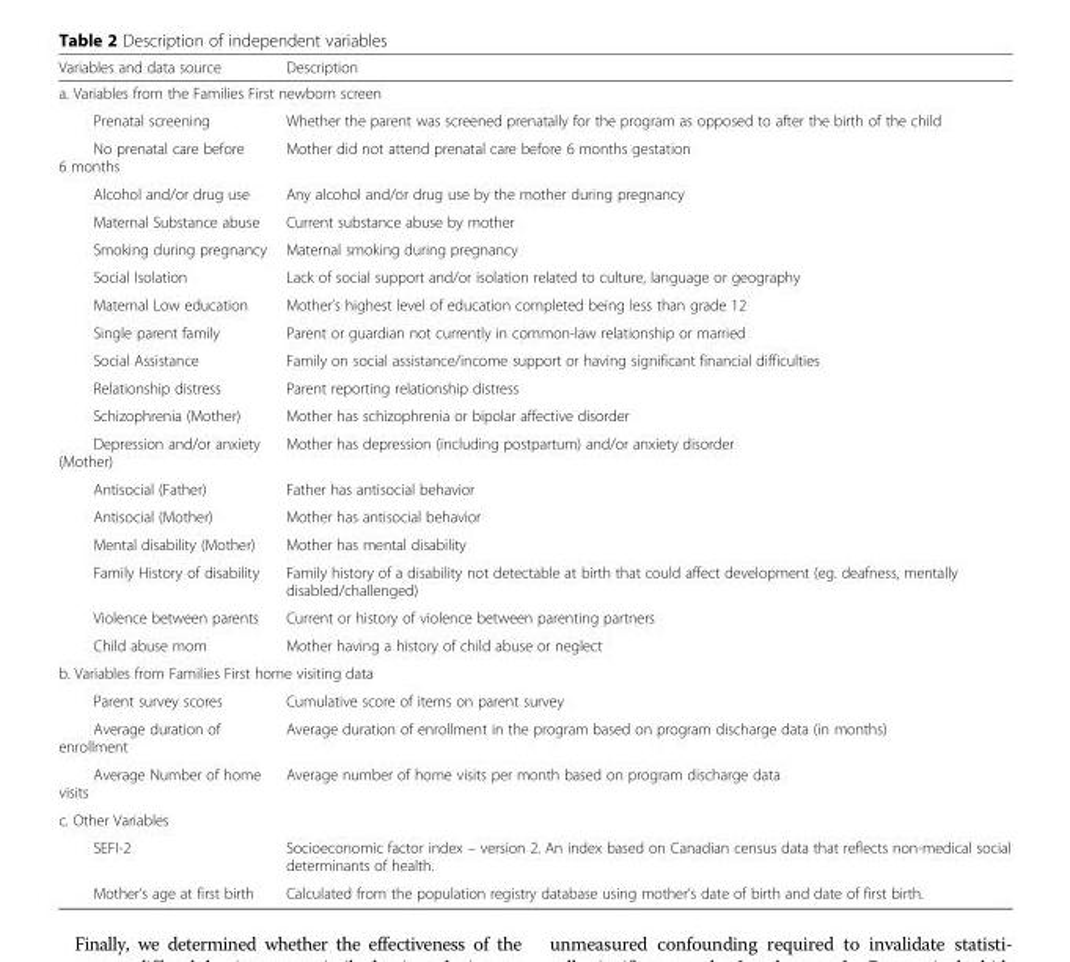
<table><thead><tr><td>Variables and data source</td><td>Description</td></tr></thead><tbody><tr><td colspan="2">a. Variables from the Families First newborn screen</td></tr><tr><td>Prenatal screening</td><td>Whether the parent was screened prenatally for the program as opposed to after the birth of the child</td></tr><tr><td>No prenatal care before 6 months</td><td>Mother did not attend prenatal care before 6 months gestation</td></tr><tr><td>Alcohol and/or drug use</td><td>Any alcohol and/or drug use by the mother during pregnancy</td></tr><tr><td>Maternal Substance abuse</td><td>Current substance abuse by mother</td></tr><tr><td>Smoking during pregnancy</td><td>Maternal smoking during pregnancy</td></tr><tr><td>Social Isolation</td><td>Lack of social support and/or isolation related to culture, language or geography</td></tr><tr><td>Maternal Low education</td><td>Mother’s highest level of education completed being less than grade 12</td></tr><tr><td>Single parent family</td><td>Parent or guardian not currently in common-law relationship or married</td></tr><tr><td>Social Assistance</td><td>Family on social assistance/income support or having significant financial difficulties</td></tr><tr><td>Relationship distress</td><td>Parent reporting relationship distress</td></tr><tr><td>Schizophrenia (Mother)</td><td>Mother has schizophrenia or bipolar affective disorder</td></tr><tr><td>Depression and/or anxiety (Mother)</td><td>Mother has depression (including postpartum) and/or anxiety disorder</td></tr><tr><td>Antisocial (Father)</td><td>Father has antisocial behavior</td></tr><tr><td>Antisocial (Mother)</td><td>Mother has antisocial behavior</td></tr><tr><td>Mental disability (Mother)</td><td>Mother has mental disability</td></tr><tr><td>Family History of disability</td><td>Family history of a disability not detectable at birth that could affect development (eg. deafness, mentally disabled/challenged)</td></tr><tr><td>Violence between parents</td><td>Current or history of violence between parenting partners</td></tr><tr><td>Child abuse mom</td><td>Mother having a history of child abuse or neglect</td></tr><tr><td colspan="2">b. Variables from Families First home visiting data</td></tr><tr><td>Parent survey scores</td><td>Cumulative score of items on parent survey</td></tr><tr><td>Average duration of enrollment</td><td>Average duration of enrollment in the program based on program discharge data (in months)</td></tr><tr><td>Average Number of home visits</td><td>Average number of home visits per month based on program discharge data</td></tr><tr><td colspan="2">c. Other Variables</td></tr><tr><td>SEFI-2</td><td>Socioeconomic factor index – version 2. An index based on Canadian census data that reflects non-medical social determinants of health.</td></tr><tr><td>Mother’s age at first birth</td><td>Calculated from the population registry database using mother’s date of birth and date of first birth.</td></tr></tbody></table>